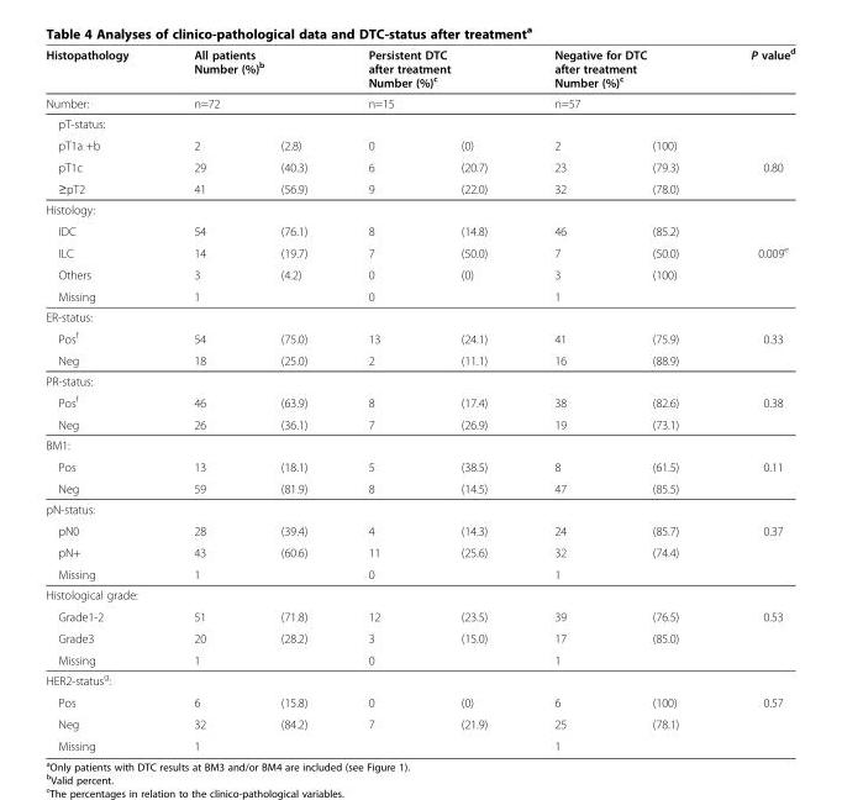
<table><thead><tr><td rowspan="2">Histopathology Number:</td><td colspan="2">All patients Number (%)<sup>b</sup></td><td colspan="2">Persistent DTC after treatment Number (%)<sup>c</sup></td><td colspan="2">Negative for DTC after treatment Number (%)<sup>c</sup></td><td rowspan="2">P value<sup>d</sup></td></tr><tr><td>n=72</td><td></td><td>n=15</td><td></td><td>n=57</td><td></td></tr></thead><tbody><tr><td colspan="8">pT-status:</td></tr><tr><td>pT1a +b</td><td>2</td><td>(2.8)</td><td>0</td><td>(0)</td><td>2</td><td>(100)</td><td></td></tr><tr><td>pT1c</td><td>29</td><td>(40.3)</td><td>6</td><td>(20.7)</td><td>23</td><td>(79.3)</td><td>0.80</td></tr><tr><td>≥pT2</td><td>41</td><td>(56.9)</td><td>9</td><td>(22.0)</td><td>32</td><td>(78.0)</td><td></td></tr><tr><td colspan="8">Histology:</td></tr><tr><td>IDC</td><td>54</td><td>(76.1)</td><td>8</td><td>(14.8)</td><td>46</td><td>(85.2)</td><td></td></tr><tr><td>ILC</td><td>14</td><td>(19.7)</td><td>7</td><td>(50.0)</td><td>7</td><td>(50.0)</td><td>0.009<sup>e</sup></td></tr><tr><td>Others</td><td>3</td><td>(4.2)</td><td>0</td><td>(0)</td><td>3</td><td>(100)</td><td></td></tr><tr><td>Missing</td><td>1</td><td></td><td>0</td><td></td><td>1</td><td></td><td></td></tr><tr><td colspan="8">ER-status:</td></tr><tr><td>Pos<sup>f</sup></td><td>54</td><td>(75.0)</td><td>13</td><td>(24.1)</td><td>41</td><td>(75.9)</td><td>0.33</td></tr><tr><td>Neg</td><td>18</td><td>(25.0)</td><td>2</td><td>(11.1)</td><td>16</td><td>(88.9)</td><td></td></tr><tr><td colspan="8">PR-status:</td></tr><tr><td>Pos<sup>f</sup></td><td>46</td><td>(63.9)</td><td>8</td><td>(17.4)</td><td>38</td><td>(82.6)</td><td>0.38</td></tr><tr><td>Neg</td><td>26</td><td>(36.1)</td><td>7</td><td>(26.9)</td><td>19</td><td>(73.1)</td><td></td></tr><tr><td colspan="8">BM1:</td></tr><tr><td>Pos</td><td>13</td><td>(18.1)</td><td>5</td><td>(38.5)</td><td>8</td><td>(61.5)</td><td>0.11</td></tr><tr><td>Neg</td><td>59</td><td>(81.9)</td><td>8</td><td>(14.5)</td><td>47</td><td>(85.5)</td><td></td></tr><tr><td colspan="8">pN-status:</td></tr><tr><td>pN0</td><td>28</td><td>(39.4)</td><td>4</td><td>(14.3)</td><td>24</td><td>(85.7)</td><td>0.37</td></tr><tr><td>pN+</td><td>43</td><td>(60.6)</td><td>11</td><td>(25.6)</td><td>32</td><td>(74.4)</td><td></td></tr><tr><td>Missing</td><td>1</td><td></td><td>0</td><td></td><td>1</td><td></td><td></td></tr><tr><td colspan="8">Histological grade:</td></tr><tr><td>Grade1-2</td><td>51</td><td>(71.8)</td><td>12</td><td>(23.5)</td><td>39</td><td>(76.5)</td><td>0.53</td></tr><tr><td>Grade3</td><td>20</td><td>(28.2)</td><td>3</td><td>(15.0)</td><td>17</td><td>(85.0)</td><td></td></tr><tr><td>Missing</td><td>1</td><td></td><td>0</td><td></td><td>1</td><td></td><td></td></tr><tr><td colspan="8">HER2-status<sup>g</sup>:</td></tr><tr><td>Pos</td><td>6</td><td>(15.8)</td><td>0</td><td>(0)</td><td>6</td><td>(100)</td><td>0.57</td></tr><tr><td>Neg</td><td>32</td><td>(84.2)</td><td>7</td><td>(21.9)</td><td>25</td><td>(78.1)</td><td></td></tr><tr><td>Missing</td><td>1</td><td></td><td></td><td></td><td>1</td><td></td><td></td></tr></tbody></table>